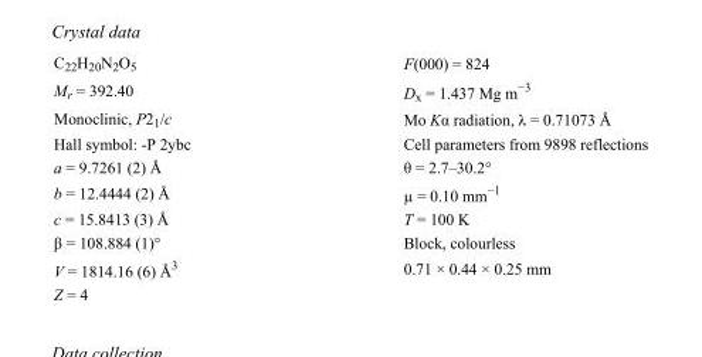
<table><tbody><tr><td>C<sub>22</sub>H<sub>20</sub>N<sub>2</sub>O<sub>5</sub></td><td>F(000) = 824</td></tr><tr><td>M<sub>r</sub> = 392.40</td><td>D<sub>x</sub> = 1.437 Mg m<sup>−3</sup></td></tr><tr><td>Monoclinic, P2<sub>1</sub>/c</td><td>Mo Kα radiation, λ = 0.71073 Å</td></tr><tr><td>Hall symbol: -P 2ybc</td><td>Cell parameters from 9898 reflections</td></tr><tr><td>a = 9.7261 (2) Å</td><td>θ = 2.7–30.2°</td></tr><tr><td>b = 12.4444 (2) Å</td><td>µ = 0.10 mm<sup>−1</sup></td></tr><tr><td>c = 15.8413 (3) Å</td><td>T = 100 K</td></tr><tr><td>β = 108.884 (1)°</td><td>Block, colourless</td></tr><tr><td>V = 1814.16 (6) Å<sup>3</sup></td><td>0.71 × 0.44 × 0.25 mm</td></tr><tr><td>Z = 4</td><td></td></tr></tbody></table>